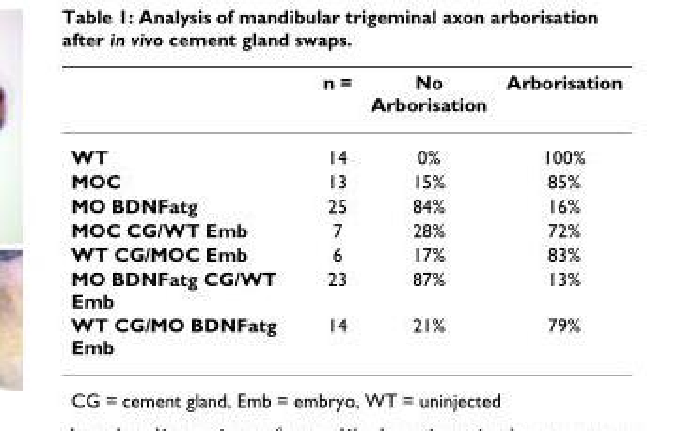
<table><thead><tr><td></td><td>n =</td><td>No Arborisation</td><td>Arborisation</td></tr></thead><tbody><tr><td>WT</td><td>14</td><td>0%</td><td>100%</td></tr><tr><td>MOC</td><td>13</td><td>15%</td><td>85%</td></tr><tr><td>MO BDNFatg</td><td>25</td><td>84%</td><td>16%</td></tr><tr><td>MOC CG/WT Emb</td><td>7</td><td>28%</td><td>72%</td></tr><tr><td>WT CG/MOC Emb</td><td>6</td><td>17%</td><td>83%</td></tr><tr><td>MO BDNFatg CG/WT Emb</td><td>23</td><td>87%</td><td>13%</td></tr><tr><td>WT CG/MO BDNFatg Emb</td><td>14</td><td>21%</td><td>79%</td></tr></tbody></table>